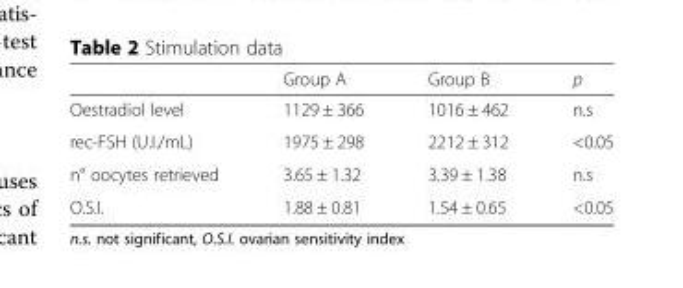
<table><thead><tr><td></td><td>Group A</td><td>Group B</td><td>p</td></tr></thead><tbody><tr><td>Oestradiol level</td><td>1129 ± 366</td><td>1016 ± 462</td><td>n.s</td></tr><tr><td>rec-FSH (U.I./mL)</td><td>1975 ± 298</td><td>2212 ± 312</td><td>&lt;0.05</td></tr><tr><td>n° oocytes retrieved</td><td>3.65 ± 1.32</td><td>3.39 ± 1.38</td><td>n.s</td></tr><tr><td>O.S.I.</td><td>1.88 ± 0.81</td><td>1.54 ± 0.65</td><td>&lt;0.05</td></tr></tbody></table>